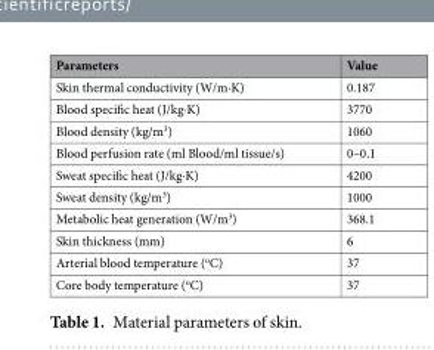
<table><thead><tr><td>Parameters</td><td>Value</td></tr></thead><tbody><tr><td>Skin thermal conductivity (W/m·K)</td><td>0.187</td></tr><tr><td>Blood specific heat (J/kg·K)</td><td>3770</td></tr><tr><td>Blood density (kg/m<sup>3</sup>)</td><td>1060</td></tr><tr><td>Blood perfusion rate (ml Blood/ml tissue/s)</td><td>0–0.1</td></tr><tr><td>Sweat specific heat (J/kg·K)</td><td>4200</td></tr><tr><td>Sweat density (kg/m<sup>3</sup>)</td><td>1000</td></tr><tr><td>Metabolic heat generation (W/m<sup>3</sup>)</td><td>368.1</td></tr><tr><td>Skin thickness (mm)</td><td>6</td></tr><tr><td>Arterial blood temperature (<sup>o</sup>C)</td><td>37</td></tr><tr><td>Core body temperature (<sup>o</sup>C)</td><td>37</td></tr></tbody></table>